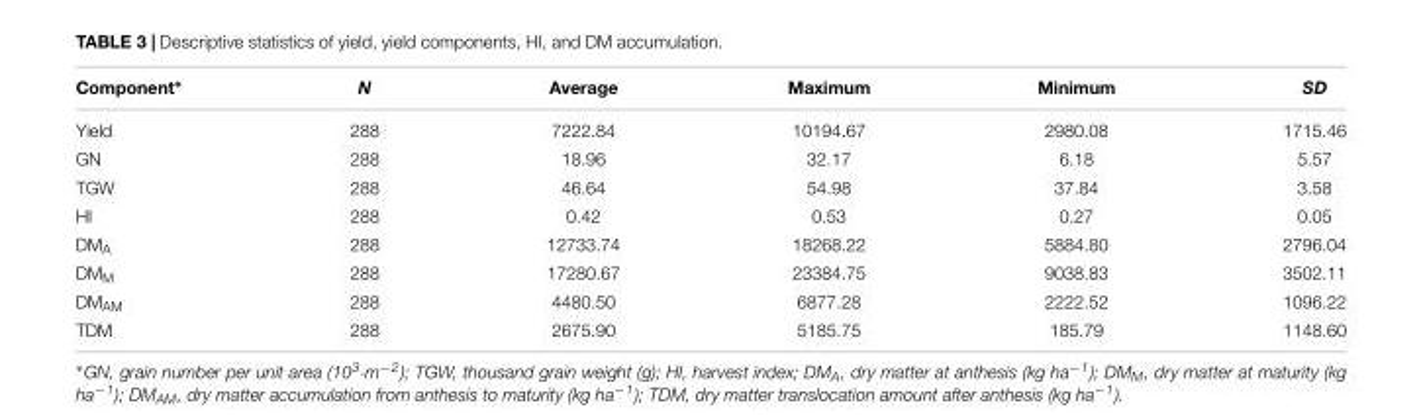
<table><thead><tr><td>Component∗</td><td>N</td><td>Average</td><td>Maximum</td><td>Minimum</td><td>SD</td></tr></thead><tbody><tr><td>Yield</td><td>288</td><td>7222.84</td><td>10194.67</td><td>2980.08</td><td>1715.46</td></tr><tr><td>GN</td><td>288</td><td>18.96</td><td>32.17</td><td>6.18</td><td>5.57</td></tr><tr><td>TGW</td><td>288</td><td>46.64</td><td>54.98</td><td>37.84</td><td>3.58</td></tr><tr><td>HI</td><td>288</td><td>0.42</td><td>0.53</td><td>0.27</td><td>0.05</td></tr><tr><td>DM<sub>A</sub></td><td>288</td><td>12733.74</td><td>18268.22</td><td>5884.80</td><td>2796.04</td></tr><tr><td>DM<sub>M</sub></td><td>288</td><td>17280.67</td><td>23384.75</td><td>9038.83</td><td>3502.11</td></tr><tr><td>DM<sub>AM</sub></td><td>288</td><td>4480.50</td><td>6877.28</td><td>2222.52</td><td>1096.22</td></tr><tr><td>TDM</td><td>288</td><td>2675.90</td><td>5185.75</td><td>185.79</td><td>1148.60</td></tr></tbody></table>